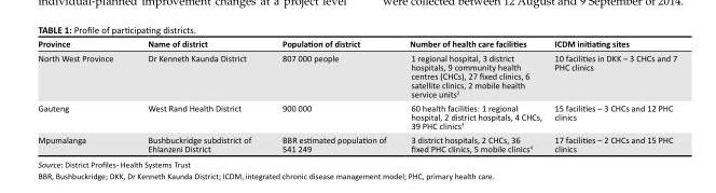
<table><thead><tr><td>Province</td><td>Name of district</td><td>Population of district</td><td>Number of health care facilities</td><td>ICDM initiating sites</td></tr></thead><tbody><tr><td>North West Province</td><td>Dr Kenneth Kaunda District</td><td>807 000 people</td><td>1 regional hospital, 3 district hospitals, 9 community health centres (CHCs), 27 fixed clinics, 6 satellite clinics, 2 mobile health service units<sup>2</sup></td><td>10 facilities in DKK – 3 CHCs and 7 PHC clinics</td></tr><tr><td>Gauteng</td><td>West Rand Health District</td><td>900 000</td><td>60 health facilities: 1 regional hospital, 2 district hospitals, 4 CHCs, 39 PHC clinics<sup>3</sup></td><td>15 facilities – 3 CHCs and 12 PHC clinics</td></tr><tr><td>Mpumalanga</td><td>Bushbuckridge subdistrict of Ehlanzeni District</td><td>BBR estimated population of 541 249</td><td>3 district hospitals, 2 CHCs, 36 fixed PHC clinics, 5 mobile clinics<sup>4</sup></td><td>17 facilities – 2 CHCs and 15 PHC clinics</td></tr></tbody></table>